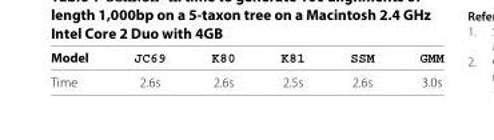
<table><thead><tr><td>Model</td><td>JC69</td><td>K80</td><td>K81</td><td>SSM</td><td>GMM</td></tr></thead><tbody><tr><td>Time</td><td>2.6s</td><td>2.6s</td><td>2.5s</td><td>2.6s</td><td>3.0s</td></tr></tbody></table>